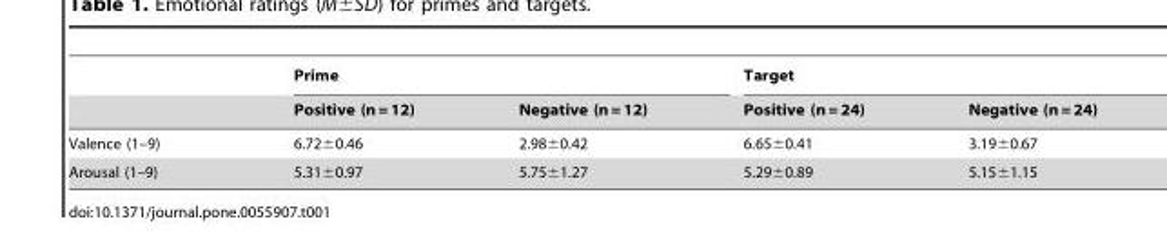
<table><thead><tr><td rowspan="2"></td><td colspan="2">Prime</td><td colspan="2">Target</td></tr><tr><td>Positive (n = 12)</td><td>Negative (n = 12)</td><td>Positive (n = 24)</td><td>Negative (n = 24)</td></tr></thead><tbody><tr><td>Valence (1–9)</td><td>6.72±0.46</td><td>2.98±0.42</td><td>6.65±0.41</td><td>3.19±0.67</td></tr><tr><td>Arousal (1–9)</td><td>5.31±0.97</td><td>5.75±1.27</td><td>5.29±0.89</td><td>5.15±1.15</td></tr></tbody></table>